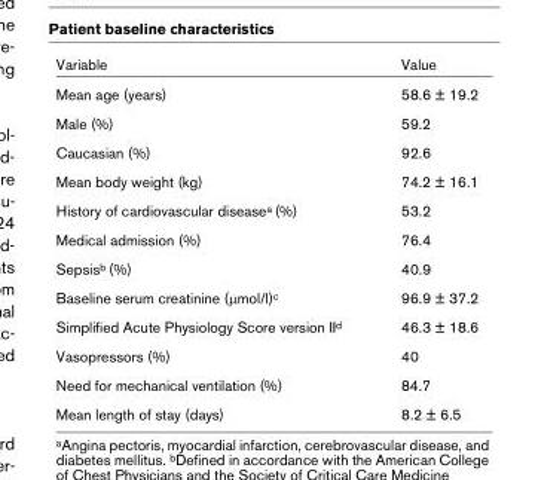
<table><thead><tr><td>Variable</td><td>Value</td></tr></thead><tbody><tr><td>Mean age (years)</td><td>58.6 ± 19.2</td></tr><tr><td>Male (%)</td><td>59.2</td></tr><tr><td>Caucasian (%)</td><td>92.6</td></tr><tr><td>Mean body weight (kg)</td><td>74.2 ± 16.1</td></tr><tr><td>History of cardiovascular disease<sup>a</sup> (%)</td><td>53.2</td></tr><tr><td>Medical admission (%)</td><td>76.4</td></tr><tr><td>Sepsis<sup>b</sup> (%)</td><td>40.9</td></tr><tr><td>Baseline serum creatinine (μmol/l)<sup>c</sup></td><td>96.9 ± 37.2</td></tr><tr><td>Simplified Acute Physiology Score version II<sup>d</sup></td><td>46.3 ± 18.6</td></tr><tr><td>Vasopressors (%)</td><td>40</td></tr><tr><td>Need for mechanical ventilation (%)</td><td>84.7</td></tr><tr><td>Mean length of stay (days)</td><td>8.2 ± 6.5</td></tr></tbody></table>